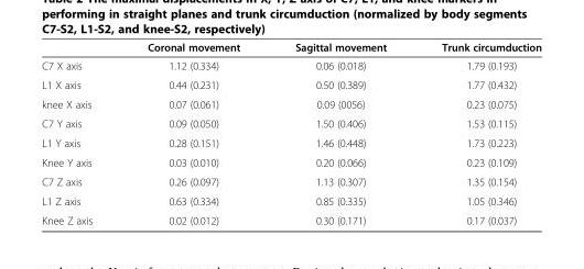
<table><thead><tr><td></td><td>Coronal movement</td><td>Sagittal movement</td><td>Trunk circumduction</td></tr></thead><tbody><tr><td>C7 X axis</td><td>1.12 (0.334)</td><td>0.06 (0.018)</td><td>1.79 (0.193)</td></tr><tr><td>L1 X axis</td><td>0.44 (0.231)</td><td>0.50 (0.389)</td><td>1.77 (0.432)</td></tr><tr><td>knee X axis</td><td>0.07 (0.061)</td><td>0.09 (0056)</td><td>0.23 (0.075)</td></tr><tr><td>C7 Y axis</td><td>0.09 (0.050)</td><td>1.50 (0.406)</td><td>1.53 (0.115)</td></tr><tr><td>L1 Y axis</td><td>0.28 (0.151)</td><td>1.46 (0.448)</td><td>1.73 (0.223)</td></tr><tr><td>Knee Y axis</td><td>0.03 (0.010)</td><td>0.20 (0.066)</td><td>0.23 (0.109)</td></tr><tr><td>C7 Z axis</td><td>0.26 (0.097)</td><td>1.13 (0.307)</td><td>1.35 (0.154)</td></tr><tr><td>L1 Z axis</td><td>0.63 (0.334)</td><td>0.85 (0.335)</td><td>1.05 (0.346)</td></tr><tr><td>Knee Z axis</td><td>0.02 (0.012)</td><td>0.30 (0.171)</td><td>0.17 (0.037)</td></tr></tbody></table>